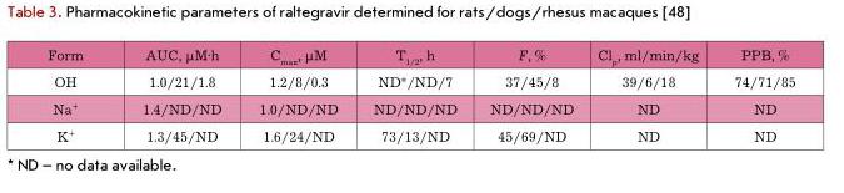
<table><thead><tr><td>Form</td><td>AUC, µM·h</td><td>C<sub>max</sub>, µM</td><td>T<sub>1/2</sub>, h</td><td>F, %</td><td>Cl<sub>p</sub>, ml/min/kg</td><td>PPB, %</td></tr></thead><tbody><tr><td>OH</td><td>1.0/21/1.8</td><td>1.2/8/0.3</td><td>ND*/ND/7</td><td>37/45/8</td><td>39/6/18</td><td>74/71/85</td></tr><tr><td>Na<sup>+</sup></td><td>1.4/ND/ND</td><td>1.0/ND/ND</td><td>ND/ND/ND</td><td>ND/ND/ND</td><td>ND</td><td>ND</td></tr><tr><td>K<sup>+</sup></td><td>1.3/45/ND</td><td>1.6/24/ND</td><td>73/13/ND</td><td>45/69/ND</td><td>ND</td><td>ND</td></tr></tbody></table>